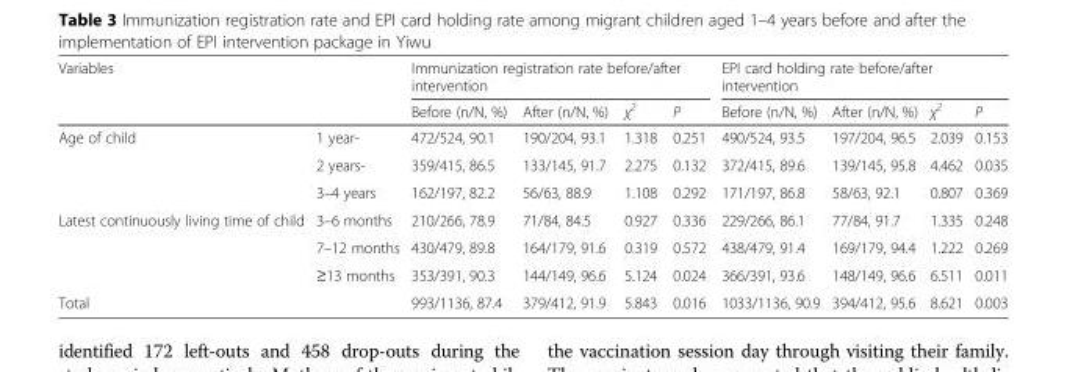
<table><thead><tr><td rowspan="2">Variables</td><td rowspan="2"></td><td colspan="4">Immunization registration rate before/after intervention</td><td colspan="4">EPI card holding rate before/after intervention</td></tr><tr><td>Before (n/N, %)</td><td>After (n/N, %)</td><td>χ<sup>2</sup></td><td>P</td><td>Before (n/N, %)</td><td>After (n/N, %)</td><td>χ<sup>2</sup></td><td>P</td></tr></thead><tbody><tr><td rowspan="3">Age of child</td><td>1 year-</td><td>472/524, 90.1</td><td>190/204, 93.1</td><td>1.318</td><td>0.251</td><td>490/524, 93.5</td><td>197/204, 96.5</td><td>2.039</td><td>0.153</td></tr><tr><td>2 years-</td><td>359/415, 86.5</td><td>133/145, 91.7</td><td>2.275</td><td>0.132</td><td>372/415, 89.6</td><td>139/145, 95.8</td><td>4.462</td><td>0.035</td></tr><tr><td>3–4 years</td><td>162/197, 82.2</td><td>56/63, 88.9</td><td>1.108</td><td>0.292</td><td>171/197, 86.8</td><td>58/63, 92.1</td><td>0.807</td><td>0.369</td></tr><tr><td rowspan="3">Latest continuously living time of child</td><td>3–6 months</td><td>210/266, 78.9</td><td>71/84, 84.5</td><td>0.927</td><td>0.336</td><td>229/266, 86.1</td><td>77/84, 91.7</td><td>1.335</td><td>0.248</td></tr><tr><td>7–12 months</td><td>430/479, 89.8</td><td>164/179, 91.6</td><td>0.319</td><td>0.572</td><td>438/479, 91.4</td><td>169/179, 94.4</td><td>1.222</td><td>0.269</td></tr><tr><td>≥13 months</td><td>353/391, 90.3</td><td>144/149, 96.6</td><td>5.124</td><td>0.024</td><td>366/391, 93.6</td><td>148/149, 96.6</td><td>6.511</td><td>0.011</td></tr><tr><td>Total</td><td></td><td>993/1136, 87.4</td><td>379/412, 91.9</td><td>5.843</td><td>0.016</td><td>1033/1136, 90.9</td><td>394/412, 95.6</td><td>8.621</td><td>0.003</td></tr></tbody></table>